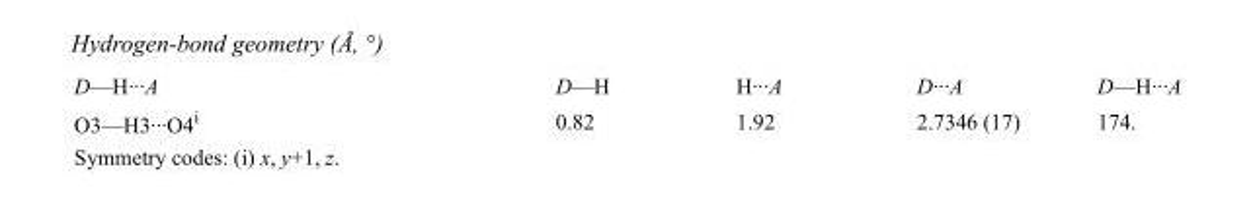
<table><tbody><tr><td>D—H···A</td><td>D—H</td><td>H···A</td><td>D···A</td><td>D—H···A</td></tr><tr><td>O3—H3···O4<sup>i</sup></td><td>0.82</td><td>1.92</td><td>2.7346 (17)</td><td>174.</td></tr></tbody></table>